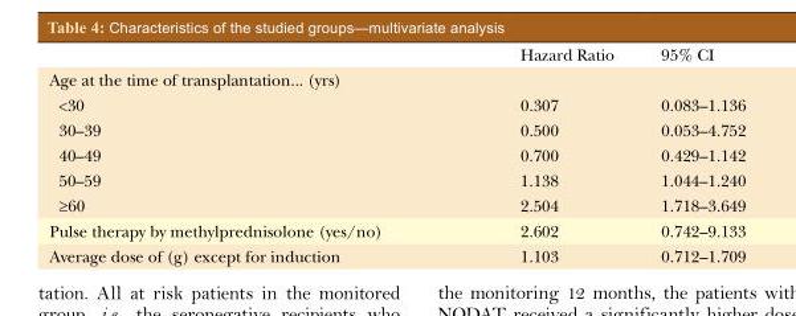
<table><thead><tr><td></td><td>Hazard Ratio</td><td>95% CI</td></tr></thead><tbody><tr><td colspan="3">Age at the time of transplantation... (yrs)</td></tr><tr><td>&lt;30</td><td>0.307</td><td>0.083–1.136</td></tr><tr><td>30–39</td><td>0.500</td><td>0.053–4.752</td></tr><tr><td>40–49</td><td>0.700</td><td>0.429–1.142</td></tr><tr><td>50–59</td><td>1.138</td><td>1.044–1.240</td></tr><tr><td>≥60</td><td>2.504</td><td>1.718–3.649</td></tr><tr><td>Pulse therapy by methylprednisolone (yes/no)</td><td>2.602</td><td>0.742–9.133</td></tr><tr><td>Average dose of (g) except for induction</td><td>1.103</td><td>0.712–1.709</td></tr></tbody></table>